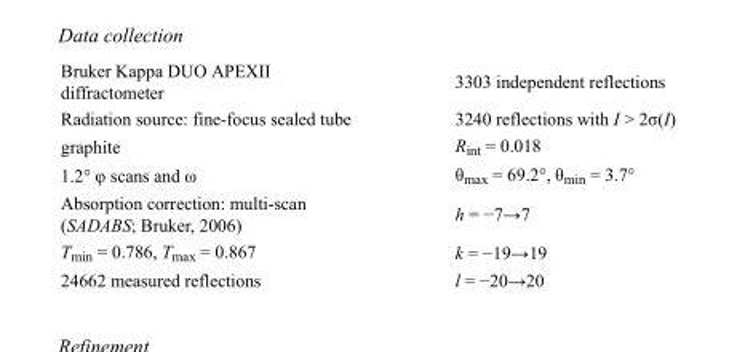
<table><tbody><tr><td>Bruker Kappa DUO APEXII diffractometer</td><td>3303 independent reflections</td></tr><tr><td>Radiation source: fine-focus sealed tube</td><td>3240 reflections with I &gt; 2σ(I)</td></tr><tr><td>graphite</td><td>R<sub>int</sub> = 0.018</td></tr><tr><td>1.2° φ scans and ω</td><td>θ<sub>max</sub> = 69.2°, θ<sub>min</sub> = 3.7°</td></tr><tr><td>Absorption correction: multi-scan (SADABS; Bruker, 2006)</td><td>h = −7→7</td></tr><tr><td>T<sub>min</sub> = 0.786, T<sub>max</sub> = 0.867</td><td>k = −19→19</td></tr><tr><td>24662 measured reflections</td><td>l = −20→20</td></tr></tbody></table>